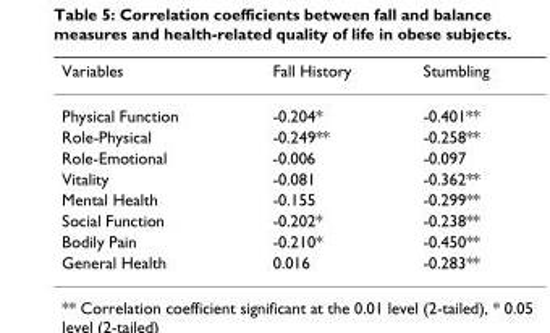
<table><thead><tr><td>Variables</td><td>Fall History</td><td>Stumbling</td></tr></thead><tbody><tr><td>Physical Function</td><td>-0.204*</td><td>-0.401**</td></tr><tr><td>Role-Physical</td><td>-0.249**</td><td>-0.258**</td></tr><tr><td>Role-Emotional</td><td>-0.006</td><td>-0.097</td></tr><tr><td>Vitality</td><td>-0.081</td><td>-0.362**</td></tr><tr><td>Mental Health</td><td>-0.155</td><td>-0.299**</td></tr><tr><td>Social Function</td><td>-0.202*</td><td>-0.238**</td></tr><tr><td>Bodily Pain</td><td>-0.210*</td><td>-0.450**</td></tr><tr><td>General Health</td><td>0.016</td><td>-0.283**</td></tr></tbody></table>